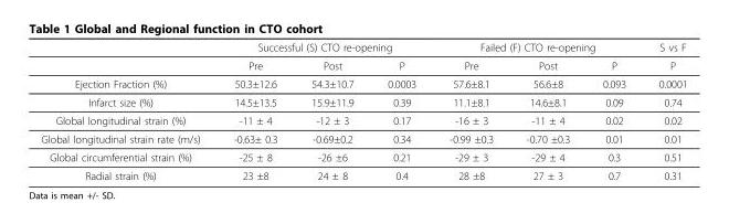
<table><thead><tr><td rowspan="2"></td><td colspan="3">Successful (S) CTO re-opening</td><td colspan="3">Failed (F) CTO re-opening</td><td rowspan="2">S vs F P</td></tr><tr><td>Pre</td><td>Post</td><td>P</td><td>Pre</td><td>Post</td><td>P</td></tr></thead><tbody><tr><td>Ejection Fraction (%)</td><td>50.3±12.6</td><td>54.3±10.7</td><td>0.0003</td><td>57.6±8.1</td><td>56.6±8</td><td>0.093</td><td>0.0001</td></tr><tr><td>Infarct size (%)</td><td>14.5±13.5</td><td>15.9±11.9</td><td>0.39</td><td>11.1±8.1</td><td>14.6±8.1</td><td>0.09</td><td>0.74</td></tr><tr><td>Global longitudinal strain (%)</td><td>-11 ± 4</td><td>-12 ± 3</td><td>0.17</td><td>-16 ± 3</td><td>-11 ± 4</td><td>0.02</td><td>0.02</td></tr><tr><td>Global longitudinal strain rate (m/s)</td><td>-0.63± 0.3</td><td>-0.69±0.2</td><td>0.34</td><td>-0.99 ±0.3</td><td>-0.70 ±0.3</td><td>0.01</td><td>0.01</td></tr><tr><td>Global circumferential strain (%)</td><td>-25 ± 8</td><td>-26 ±6</td><td>0.21</td><td>-29 ± 3</td><td>-29 ± 4</td><td>0.3</td><td>0.51</td></tr><tr><td>Radial strain (%)</td><td>23 ±8</td><td>24 ± 8</td><td>0.4</td><td>28 ±8</td><td>27 ± 3</td><td>0.7</td><td>0.31</td></tr></tbody></table>